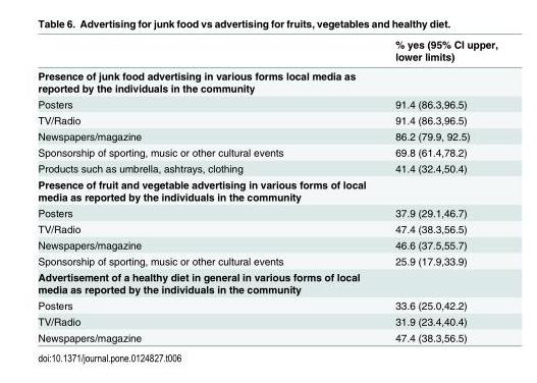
<table><thead><tr><td></td><td>% yes (95% CI upper, lower limits)</td></tr></thead><tbody><tr><td colspan="2">Presence of junk food advertising in various forms local media as reported by the individuals in the community</td></tr><tr><td>Posters</td><td>91.4 (86.3,96.5)</td></tr><tr><td>TV/Radio</td><td>91.4 (86.3,96.5)</td></tr><tr><td>Newspapers/magazine</td><td>86.2 (79.9, 92.5)</td></tr><tr><td>Sponsorship of sporting, music or other cultural events</td><td>69.8 (61.4,78.2)</td></tr><tr><td>Products such as umbrella, ashtrays, clothing</td><td>41.4 (32.4,50.4)</td></tr><tr><td colspan="2">Presence of fruit and vegetable advertising in various forms of local media as reported by the individuals in the community</td></tr><tr><td>Posters</td><td>37.9 (29.1,46.7)</td></tr><tr><td>TV/Radio</td><td>47.4 (38.3,56.5)</td></tr><tr><td>Newspapers/magazine</td><td>46.6 (37.5,55.7)</td></tr><tr><td>Sponsorship of sporting, music or other cultural events</td><td>25.9 (17.9,33.9)</td></tr><tr><td colspan="2">Advertisement of a healthy diet in general in various forms of local media as reported by the individuals in the community</td></tr><tr><td>Posters</td><td>33.6 (25.0,42.2)</td></tr><tr><td>TV/Radio</td><td>31.9 (23.4,40.4)</td></tr><tr><td>Newspapers/magazine</td><td>47.4 (38.3,56.5)</td></tr></tbody></table>